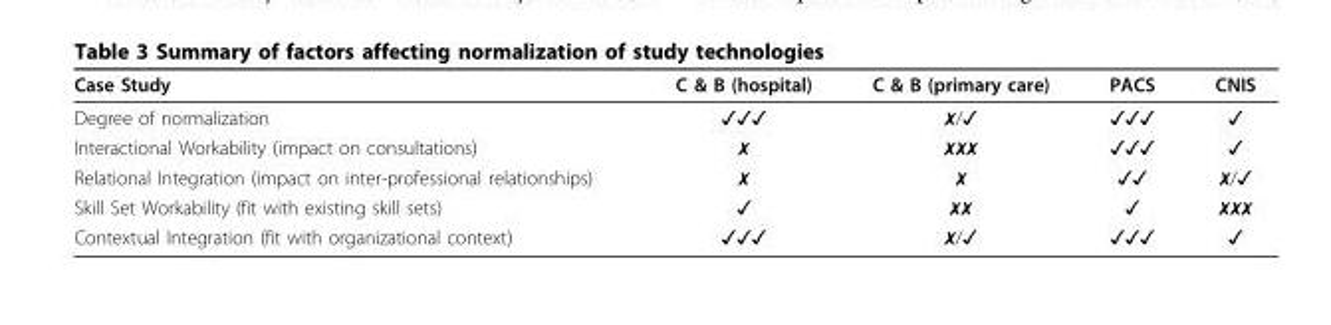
<table><thead><tr><td>Case Study</td><td>C &amp; B (hospital)</td><td>C &amp; B (primary care)</td><td>PACS</td><td>CNIS</td></tr></thead><tbody><tr><td>Degree of normalization</td><td>✓✓✓</td><td>✗/✓</td><td>✓✓✓</td><td>✓</td></tr><tr><td>Interactional Workability (impact on consultations)</td><td>✗</td><td>✗✗✗</td><td>✓✓✓</td><td>✓</td></tr><tr><td>Relational Integration (impact on inter-professional relationships)</td><td>✗</td><td>✗</td><td>✓✓</td><td>✗/✓</td></tr><tr><td>Skill Set Workability (fit with existing skill sets)</td><td>✓</td><td>✗✗</td><td>✓</td><td>✗✗✗</td></tr><tr><td>Contextual Integration (fit with organizational context)</td><td>✓✓✓</td><td>✗/✓</td><td>✓✓✓</td><td>✓</td></tr></tbody></table>